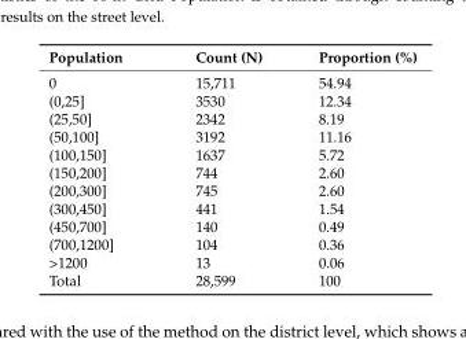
<table><thead><tr><td>Population</td><td>Count (N)</td><td>Proportion (%)</td></tr></thead><tbody><tr><td>0</td><td>15,711</td><td>54.94</td></tr><tr><td>(0,25]</td><td>3530</td><td>12.34</td></tr><tr><td>(25,50]</td><td>2342</td><td>8.19</td></tr><tr><td>(50,100]</td><td>3192</td><td>11.16</td></tr><tr><td>(100,150]</td><td>1637</td><td>5.72</td></tr><tr><td>(150,200]</td><td>744</td><td>2.60</td></tr><tr><td>(200,300]</td><td>745</td><td>2.60</td></tr><tr><td>(300,450]</td><td>441</td><td>1.54</td></tr><tr><td>(450,700]</td><td>140</td><td>0.49</td></tr><tr><td>(700,1200]</td><td>104</td><td>0.36</td></tr><tr><td>&gt;1200</td><td>13</td><td>0.06</td></tr><tr><td>Total</td><td>28,599</td><td>100</td></tr></tbody></table>